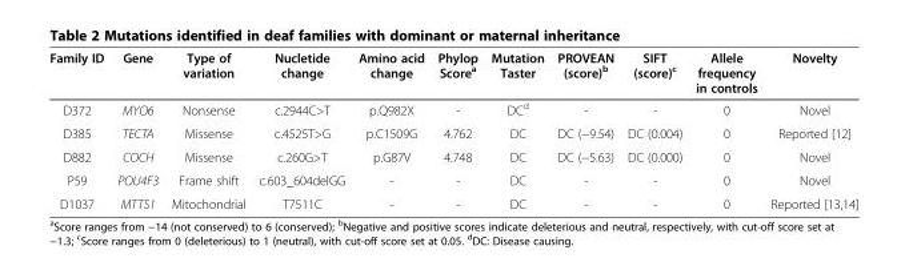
<table><thead><tr><td>Family ID</td><td>Gene</td><td>Type of variation</td><td>Nucletide change</td><td>Amino acid change</td><td>Phylop Score<sup>a</sup></td><td>Mutation Taster</td><td>PROVEAN (score)<sup>b</sup></td><td>SIFT (score)<sup>c</sup></td><td>Allele frequency in controls</td><td>Novelty</td></tr></thead><tbody><tr><td>D372</td><td>MYO6</td><td>Nonsense</td><td>c.2944C&gt;T</td><td>p.Q982X</td><td>-</td><td>DC<sup>d</sup></td><td>-</td><td>-</td><td>0</td><td>Novel</td></tr><tr><td>D385</td><td>TECTA</td><td>Missense</td><td>c.4525T&gt;G</td><td>p.C1509G</td><td>4.762</td><td>DC</td><td>DC (−9.54)</td><td>DC (0.004)</td><td>0</td><td>Reported [12]</td></tr><tr><td>D882</td><td>COCH</td><td>Missense</td><td>c.260G&gt;T</td><td>p.G87V</td><td>4.748</td><td>DC</td><td>DC (−5.63)</td><td>DC (0.000)</td><td>0</td><td>Novel</td></tr><tr><td>P59</td><td>POU4F3</td><td>Frame shift</td><td>c.603_604delGG</td><td>-</td><td>-</td><td>DC</td><td>-</td><td>-</td><td>0</td><td>Novel</td></tr><tr><td>D1037</td><td>MTTS1</td><td>Mitochondrial</td><td>T7511C</td><td>-</td><td>-</td><td>DC</td><td>-</td><td>-</td><td>0</td><td>Reported [13,14]</td></tr></tbody></table>